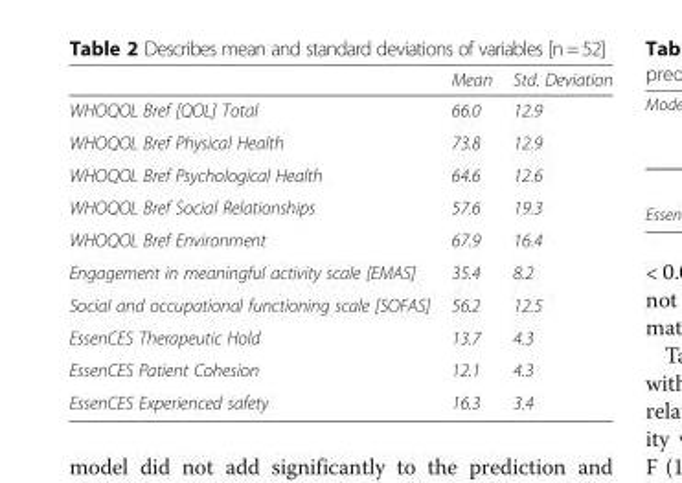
<table><thead><tr><td></td><td>Mean</td><td>Std. Deviation</td></tr></thead><tbody><tr><td>WHOQOL Bref [QOL] Total</td><td>66.0</td><td>12.9</td></tr><tr><td>WHOQOL Bref Physical Health</td><td>73.8</td><td>12.9</td></tr><tr><td>WHOQOL Bref Psychological Health</td><td>64.6</td><td>12.6</td></tr><tr><td>WHOQOL Bref Social Relationships</td><td>57.6</td><td>19.3</td></tr><tr><td>WHOQOL Bref Environment</td><td>67.9</td><td>16.4</td></tr><tr><td>Engagement in meaningful activity scale [EMAS]</td><td>35.4</td><td>8.2</td></tr><tr><td>Social and occupational functioning scale [SOFAS]</td><td>56.2</td><td>12.5</td></tr><tr><td>EssenCES Therapeutic Hold</td><td>13.7</td><td>4.3</td></tr><tr><td>EssenCES Patient Cohesion</td><td>12.1</td><td>4.3</td></tr><tr><td>EssenCES Experienced safety</td><td>16.3</td><td>3.4</td></tr></tbody></table>